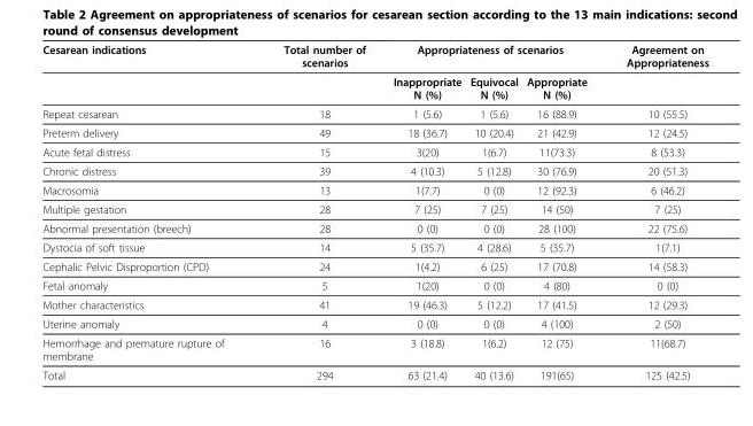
<table><thead><tr><td rowspan="2">Cesarean indications</td><td rowspan="2">Total number of scenarios</td><td colspan="3">Appropriateness of scenarios</td><td rowspan="2">Agreement on Appropriateness</td></tr><tr><td>Inappropriate N (%)</td><td>Equivocal N (%)</td><td>Appropriate N (%)</td></tr></thead><tbody><tr><td>Repeat cesarean</td><td>18</td><td>1 (5.6)</td><td>1 (5.6)</td><td>16 (88.9)</td><td>10 (55.5)</td></tr><tr><td>Preterm delivery</td><td>49</td><td>18 (36.7)</td><td>10 (20.4)</td><td>21 (42.9)</td><td>12 (24.5)</td></tr><tr><td>Acute fetal distress</td><td>15</td><td>3(20)</td><td>1(6.7)</td><td>11(73.3)</td><td>8 (53.3)</td></tr><tr><td>Chronic distress</td><td>39</td><td>4 (10.3)</td><td>5 (12.8)</td><td>30 (76.9)</td><td>20 (51.3)</td></tr><tr><td>Macrosomia</td><td>13</td><td>1(7.7)</td><td>0 (0)</td><td>12 (92.3)</td><td>6 (46.2)</td></tr><tr><td>Multiple gestation</td><td>28</td><td>7 (25)</td><td>7 (25)</td><td>14 (50)</td><td>7 (25)</td></tr><tr><td>Abnormal presentation (breech)</td><td>28</td><td>0 (0)</td><td>0 (0)</td><td>28 (100)</td><td>22 (75.6)</td></tr><tr><td>Dystocia of soft tissue</td><td>14</td><td>5 (35.7)</td><td>4 (28.6)</td><td>5 (35.7)</td><td>1(7.1)</td></tr><tr><td>Cephalic Pelvic Disproportion (CPD)</td><td>24</td><td>1(4.2)</td><td>6 (25)</td><td>17 (70.8)</td><td>14 (58.3)</td></tr><tr><td>Fetal anomaly</td><td>5</td><td>1(20)</td><td>0 (0)</td><td>4 (80)</td><td>0 (0)</td></tr><tr><td>Mother characteristics</td><td>41</td><td>19 (46.3)</td><td>5 (12.2)</td><td>17 (41.5)</td><td>12 (29.3)</td></tr><tr><td>Uterine anomaly</td><td>4</td><td>0 (0)</td><td>0 (0)</td><td>4 (100)</td><td>2 (50)</td></tr><tr><td>Hemorrhage and premature rupture of membrane</td><td>16</td><td>3 (18.8)</td><td>1(6.2)</td><td>12 (75)</td><td>11(68.7)</td></tr><tr><td>Total</td><td>294</td><td>63 (21.4)</td><td>40 (13.6)</td><td>191(65)</td><td>125 (42.5)</td></tr></tbody></table>